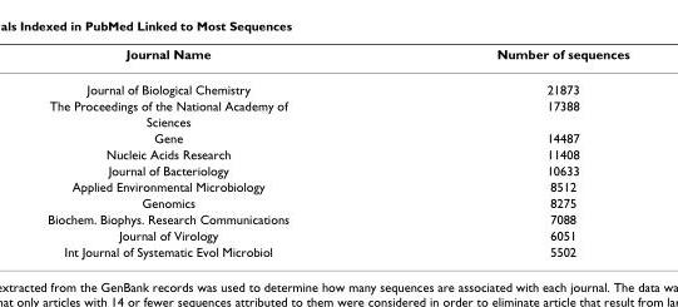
<table><thead><tr><td>Journal Name</td><td>Number of sequences</td></tr></thead><tbody><tr><td>Journal of Biological Chemistry</td><td>21873</td></tr><tr><td>The Proceedings of the National Academy of</td><td>17388</td></tr><tr><td colspan="2">Sciences</td></tr><tr><td>Gene</td><td>14487</td></tr><tr><td>Nucleic Acids Research</td><td>11408</td></tr><tr><td>Journal of Bacteriology</td><td>10633</td></tr><tr><td>Applied Environmental Microbiology</td><td>8512</td></tr><tr><td>Genomics</td><td>8275</td></tr><tr><td>Biochem. Biophys. Research Communications</td><td>7088</td></tr><tr><td>Journal of Virology</td><td>6051</td></tr><tr><td>Int Journal of Systematic Evol Microbiol</td><td>5502</td></tr></tbody></table>